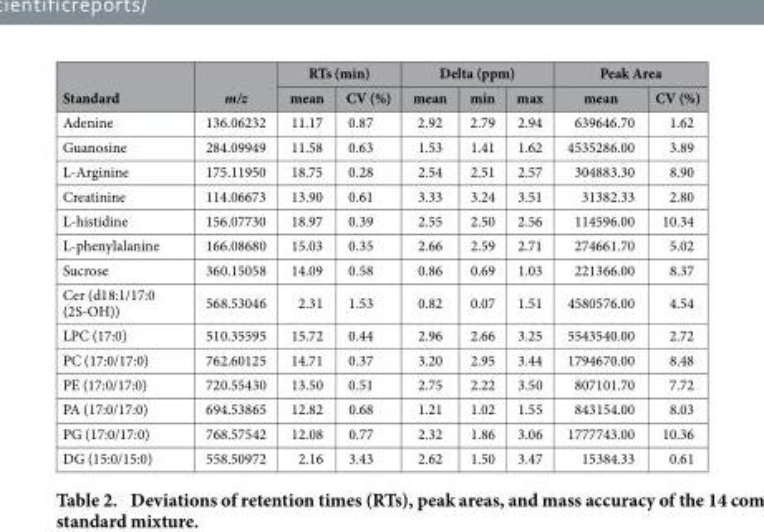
<table><thead><tr><td rowspan="2">Standard</td><td rowspan="2">m/z</td><td colspan="2">RTs (min)</td><td colspan="3">Delta (ppm)</td><td colspan="2">Peak Area</td></tr><tr><td>mean</td><td>CV (%)</td><td>mean</td><td>min</td><td>max</td><td>mean</td><td>CV (%)</td></tr></thead><tbody><tr><td>Adenine</td><td>136.06232</td><td>11.17</td><td>0.87</td><td>2.92</td><td>2.79</td><td>2.94</td><td>639646.70</td><td>1.62</td></tr><tr><td>Guanosine</td><td>284.09949</td><td>11.58</td><td>0.63</td><td>1.53</td><td>1.41</td><td>1.62</td><td>4535286.00</td><td>3.89</td></tr><tr><td>L-Arginine</td><td>175.11950</td><td>18.75</td><td>0.28</td><td>2.54</td><td>2.51</td><td>2.57</td><td>304883.30</td><td>8.90</td></tr><tr><td>Creatinine</td><td>114.06673</td><td>13.90</td><td>0.61</td><td>3.33</td><td>3.24</td><td>3.51</td><td>31382.33</td><td>2.80</td></tr><tr><td>L-histidine</td><td>156.07730</td><td>18.97</td><td>0.39</td><td>2.55</td><td>2.50</td><td>2.56</td><td>114596.00</td><td>10.34</td></tr><tr><td>L-phenylalanine</td><td>166.08680</td><td>15.03</td><td>0.35</td><td>2.66</td><td>2.59</td><td>2.71</td><td>274661.70</td><td>5.02</td></tr><tr><td>Sucrose</td><td>360.15058</td><td>14.09</td><td>0.58</td><td>0.86</td><td>0.69</td><td>1.03</td><td>221366.00</td><td>8.37</td></tr><tr><td>Cer (d18:1/17:0 (2S-OH))</td><td>568.53046</td><td>2.31</td><td>1.53</td><td>0.82</td><td>0.07</td><td>1.51</td><td>4580576.00</td><td>4.54</td></tr><tr><td>LPC (17:0)</td><td>510.35595</td><td>15.72</td><td>0.44</td><td>2.96</td><td>2.66</td><td>3.25</td><td>5543540.00</td><td>2.72</td></tr><tr><td>PC (17:0/17:0)</td><td>762.60125</td><td>14.71</td><td>0.37</td><td>3.20</td><td>2.95</td><td>3.44</td><td>1794670.00</td><td>8.48</td></tr><tr><td>PE (17:0/17:0)</td><td>720.55430</td><td>13.50</td><td>0.51</td><td>2.75</td><td>2.22</td><td>3.50</td><td>807101.70</td><td>7.72</td></tr><tr><td>PA (17:0/17:0)</td><td>694.53865</td><td>12.82</td><td>0.68</td><td>1.21</td><td>1.02</td><td>1.55</td><td>843154.00</td><td>8.03</td></tr><tr><td>PG (17:0/17:0)</td><td>768.57542</td><td>12.08</td><td>0.77</td><td>2.32</td><td>1.86</td><td>3.06</td><td>1777743.00</td><td>10.36</td></tr><tr><td>DG (15:0/15:0)</td><td>558.50972</td><td>2.16</td><td>3.43</td><td>2.62</td><td>1.50</td><td>3.47</td><td>15384.33</td><td>0.61</td></tr></tbody></table>